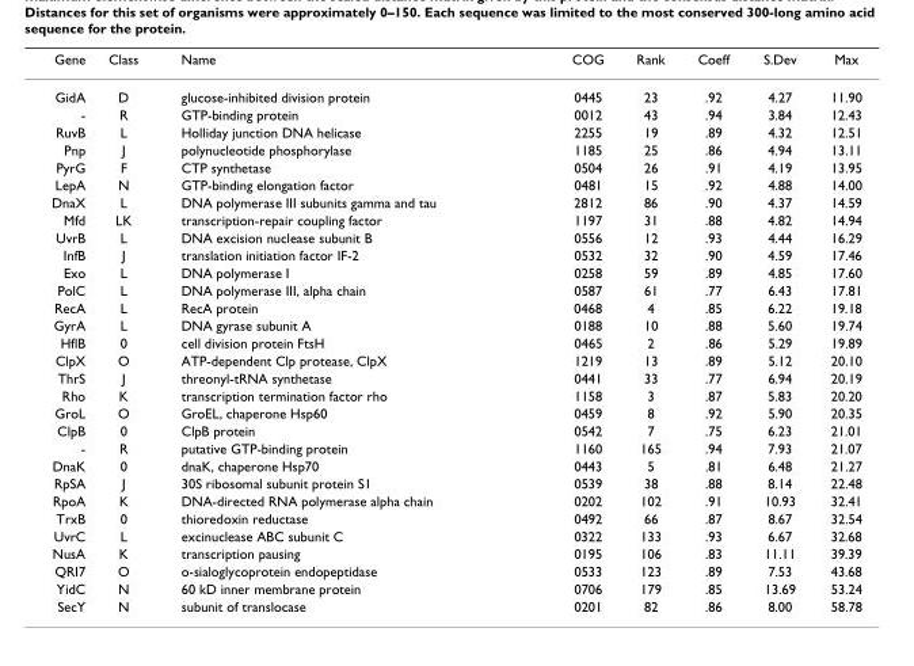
<table><thead><tr><td>Gene</td><td>Class</td><td>Name</td><td>COG</td><td>Rank</td><td>Coeff</td><td>S.Dev</td><td>Max</td></tr></thead><tbody><tr><td>GidA</td><td>D</td><td>glucose-inhibited division protein</td><td>0445</td><td>23</td><td>.92</td><td>4.27</td><td>11.90</td></tr><tr><td>-</td><td>R</td><td>GTP-binding protein</td><td>0012</td><td>43</td><td>.94</td><td>3.84</td><td>12.43</td></tr><tr><td>RuvB</td><td>L</td><td>Holliday junction DNA helicase</td><td>2255</td><td>19</td><td>.89</td><td>4.32</td><td>12.51</td></tr><tr><td>Pnp</td><td>J</td><td>polynucleotide phosphorylase</td><td>1185</td><td>25</td><td>.86</td><td>4.94</td><td>13.11</td></tr><tr><td>PyrG</td><td>F</td><td>CTP synthetase</td><td>0504</td><td>26</td><td>.91</td><td>4.19</td><td>13.95</td></tr><tr><td>LepA</td><td>N</td><td>GTP-binding elongation factor</td><td>0481</td><td>15</td><td>.92</td><td>4.88</td><td>14.00</td></tr><tr><td>DnaX</td><td>L</td><td>DNA polymerase III subunits gamma and tau</td><td>2812</td><td>86</td><td>.90</td><td>4.37</td><td>14.59</td></tr><tr><td>Mfd</td><td>LK</td><td>transcription-repair coupling factor</td><td>1197</td><td>31</td><td>.88</td><td>4.82</td><td>14.94</td></tr><tr><td>UvrB</td><td>L</td><td>DNA excision nuclease subunit B</td><td>0556</td><td>12</td><td>.93</td><td>4.44</td><td>16.29</td></tr><tr><td>InfB</td><td>J</td><td>translation initiation factor IF-2</td><td>0532</td><td>32</td><td>.90</td><td>4.59</td><td>17.46</td></tr><tr><td>Exo</td><td>L</td><td>DNA polymerase I</td><td>0258</td><td>59</td><td>.89</td><td>4.85</td><td>17.60</td></tr><tr><td>PolC</td><td>L</td><td>DNA polymerase III, alpha chain</td><td>0587</td><td>61</td><td>.77</td><td>6.43</td><td>17.81</td></tr><tr><td>RecA</td><td>L</td><td>RecA protein</td><td>0468</td><td>4</td><td>.85</td><td>6.22</td><td>19.18</td></tr><tr><td>GyrA</td><td>L</td><td>DNA gyrase subunit A</td><td>0188</td><td>10</td><td>.88</td><td>5.60</td><td>19.74</td></tr><tr><td>HflB</td><td>0</td><td>cell division protein FtsH</td><td>0465</td><td>2</td><td>.86</td><td>5.29</td><td>19.89</td></tr><tr><td>ClpX</td><td>O</td><td>ATP-dependent Clp protease, ClpX</td><td>1219</td><td>13</td><td>.89</td><td>5.12</td><td>20.10</td></tr><tr><td>ThrS</td><td>J</td><td>threonyl-tRNA synthetase</td><td>0441</td><td>33</td><td>.77</td><td>6.94</td><td>20.19</td></tr><tr><td>Rho</td><td>K</td><td>transcription termination factor rho</td><td>1158</td><td>3</td><td>.87</td><td>5.83</td><td>20.20</td></tr><tr><td>GroL</td><td>O</td><td>GroEL, chaperone Hsp60</td><td>0459</td><td>8</td><td>.92</td><td>5.90</td><td>20.35</td></tr><tr><td>ClpB</td><td>0</td><td>ClpB protein</td><td>0542</td><td>7</td><td>.75</td><td>6.23</td><td>21.01</td></tr><tr><td>-</td><td>R</td><td>putative GTP-binding protein</td><td>1160</td><td>165</td><td>.94</td><td>7.93</td><td>21.07</td></tr><tr><td>DnaK</td><td>0</td><td>dnaK, chaperone Hsp70</td><td>0443</td><td>5</td><td>.81</td><td>6.48</td><td>21.27</td></tr><tr><td>RpSA</td><td>J</td><td>30S ribosomal subunit protein S1</td><td>0539</td><td>38</td><td>.88</td><td>8.14</td><td>22.48</td></tr><tr><td>RpoA</td><td>K</td><td>DNA-directed RNA polymerase alpha chain</td><td>0202</td><td>102</td><td>.91</td><td>10.93</td><td>32.41</td></tr><tr><td>TrxB</td><td>0</td><td>thioredoxin reductase</td><td>0492</td><td>66</td><td>.87</td><td>8.67</td><td>32.54</td></tr><tr><td>UvrC</td><td>L</td><td>excinuclease ABC subunit C</td><td>0322</td><td>133</td><td>.93</td><td>6.67</td><td>32.68</td></tr><tr><td>NusA</td><td>K</td><td>transcription pausing</td><td>0195</td><td>106</td><td>.83</td><td>11.11</td><td>39.39</td></tr><tr><td>QRI7</td><td>O</td><td>o-sialoglycoprotein endopeptidase</td><td>0533</td><td>123</td><td>.89</td><td>7.53</td><td>43.68</td></tr><tr><td>YidC</td><td>N</td><td>60 kD inner membrane protein</td><td>0706</td><td>179</td><td>.85</td><td>13.69</td><td>53.24</td></tr><tr><td>SecY</td><td>N</td><td>subunit of translocase</td><td>0201</td><td>82</td><td>.86</td><td>8.00</td><td>58.78</td></tr></tbody></table>